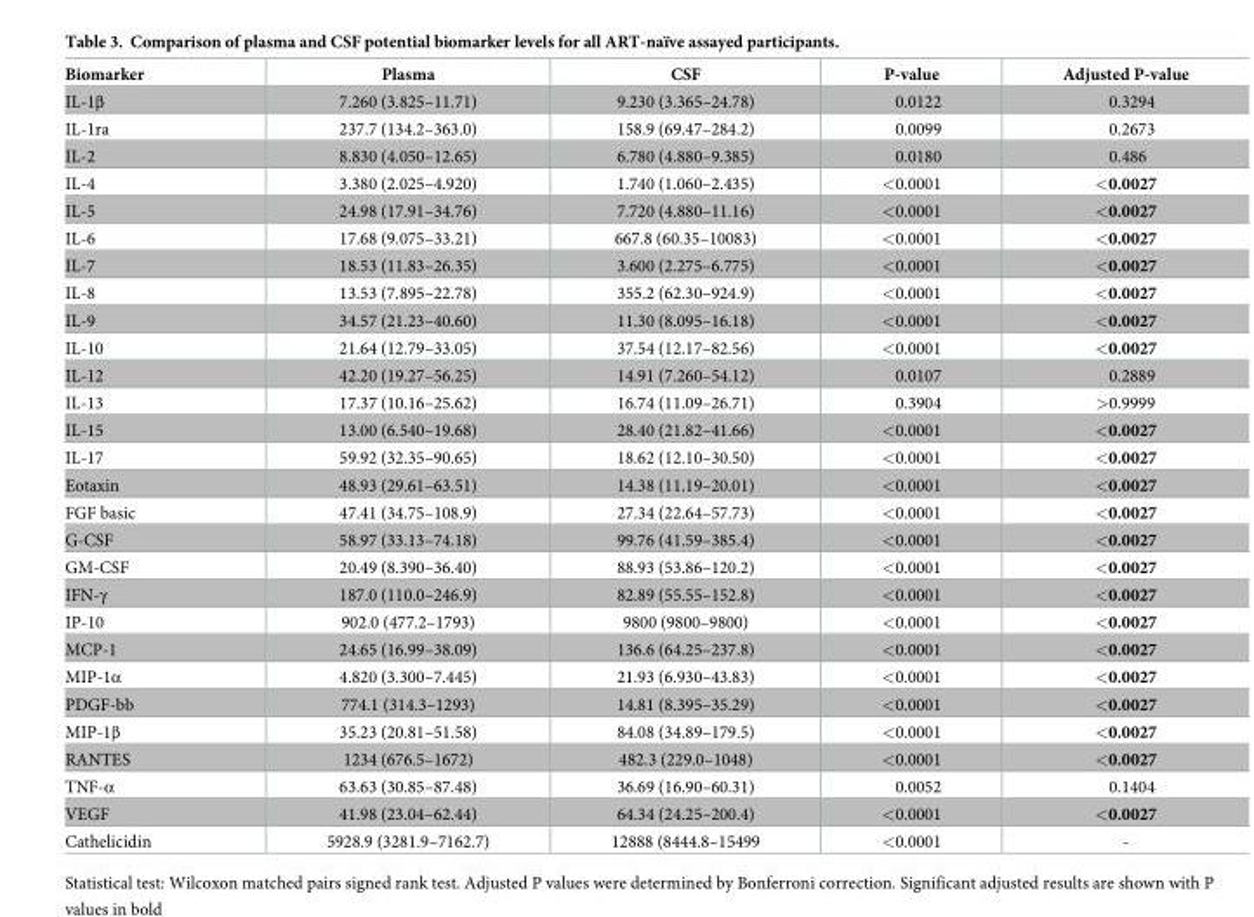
<table><thead><tr><td>Biomarker</td><td>Plasma</td><td>CSF</td><td>P-value</td><td>Adjusted P-value</td></tr></thead><tbody><tr><td>IL-1β</td><td>7.260 (3.825–11.71)</td><td>9.230 (3.365–24.78)</td><td>0.0122</td><td>0.3294</td></tr><tr><td>IL-1ra</td><td>237.7 (134.2–363.0)</td><td>158.9 (69.47–284.2)</td><td>0.0099</td><td>0.2673</td></tr><tr><td>IL-2</td><td>8.830 (4.050–12.65)</td><td>6.780 (4.880–9.385)</td><td>0.0180</td><td>0.486</td></tr><tr><td>IL-4</td><td>3.380 (2.025–4.920)</td><td>1.740 (1.060–2.435)</td><td>&lt;0.0001</td><td>&lt;0.0027</td></tr><tr><td>IL-5</td><td>24.98 (17.91–34.76)</td><td>7.720 (4.880–11.16)</td><td>&lt;0.0001</td><td>&lt;0.0027</td></tr><tr><td>IL-6</td><td>17.68 (9.075–33.21)</td><td>667.8 (60.35–10083)</td><td>&lt;0.0001</td><td>&lt;0.0027</td></tr><tr><td>IL-7</td><td>18.53 (11.83–26.35)</td><td>3.600 (2.275–6.775)</td><td>&lt;0.0001</td><td>&lt;0.0027</td></tr><tr><td>IL-8</td><td>13.53 (7.895–22.78)</td><td>355.2 (62.30–924.9)</td><td>&lt;0.0001</td><td>&lt;0.0027</td></tr><tr><td>IL-9</td><td>34.57 (21.23–40.60)</td><td>11.30 (8.095–16.18)</td><td>&lt;0.0001</td><td>&lt;0.0027</td></tr><tr><td>IL-10</td><td>21.64 (12.79–33.05)</td><td>37.54 (12.17–82.56)</td><td>&lt;0.0001</td><td>&lt;0.0027</td></tr><tr><td>IL-12</td><td>42.20 (19.27–56.25)</td><td>14.91 (7.260–54.12)</td><td>0.0107</td><td>0.2889</td></tr><tr><td>IL-13</td><td>17.37 (10.16–25.62)</td><td>16.74 (11.09–26.71)</td><td>0.3904</td><td>&gt;0.9999</td></tr><tr><td>IL-15</td><td>13.00 (6.540–19.68)</td><td>28.40 (21.82–41.66)</td><td>&lt;0.0001</td><td>&lt;0.0027</td></tr><tr><td>IL-17</td><td>59.92 (32.35–90.65)</td><td>18.62 (12.10–30.50)</td><td>&lt;0.0001</td><td>&lt;0.0027</td></tr><tr><td>Eotaxin</td><td>48.93 (29.61–63.51)</td><td>14.38 (11.19–20.01)</td><td>&lt;0.0001</td><td>&lt;0.0027</td></tr><tr><td>FGF basic</td><td>47.41 (34.75–108.9)</td><td>27.34 (22.64–57.73)</td><td>&lt;0.0001</td><td>&lt;0.0027</td></tr><tr><td>G-CSF</td><td>58.97 (33.13–74.18)</td><td>99.76 (41.59–385.4)</td><td>&lt;0.0001</td><td>&lt;0.0027</td></tr><tr><td>GM-CSF</td><td>20.49 (8.390–36.40)</td><td>88.93 (53.86–120.2)</td><td>&lt;0.0001</td><td>&lt;0.0027</td></tr><tr><td>IFN-γ</td><td>187.0 (110.0–246.9)</td><td>82.89 (55.55–152.8)</td><td>&lt;0.0001</td><td>&lt;0.0027</td></tr><tr><td>IP-10</td><td>902.0 (477.2–1793)</td><td>9800 (9800–9800)</td><td>&lt;0.0001</td><td>&lt;0.0027</td></tr><tr><td>MCP-1</td><td>24.65 (16.99–38.09)</td><td>136.6 (64.25–237.8)</td><td>&lt;0.0001</td><td>&lt;0.0027</td></tr><tr><td>MIP-1α</td><td>4.820 (3.300–7.445)</td><td>21.93 (6.930–43.83)</td><td>&lt;0.0001</td><td>&lt;0.0027</td></tr><tr><td>PDGF-bb</td><td>774.1 (314.3–1293)</td><td>14.81 (8.395–35.29)</td><td>&lt;0.0001</td><td>&lt;0.0027</td></tr><tr><td>MIP-1β</td><td>35.23 (20.81–51.58)</td><td>84.08 (34.89–179.5)</td><td>&lt;0.0001</td><td>&lt;0.0027</td></tr><tr><td>RANTES</td><td>1234 (676.5–1672)</td><td>482.3 (229.0–1048)</td><td>&lt;0.0001</td><td>&lt;0.0027</td></tr><tr><td>TNF-α</td><td>63.63 (30.85–87.48)</td><td>36.69 (16.90–60.31)</td><td>0.0052</td><td>0.1404</td></tr><tr><td>VEGF</td><td>41.98 (23.04–62.44)</td><td>64.34 (24.25–200.4)</td><td>&lt;0.0001</td><td>&lt;0.0027</td></tr><tr><td>Cathelicidin</td><td>5928.9 (3281.9–7162.7)</td><td>12888 (8444.8–15499</td><td>&lt;0.0001</td><td>-</td></tr></tbody></table>